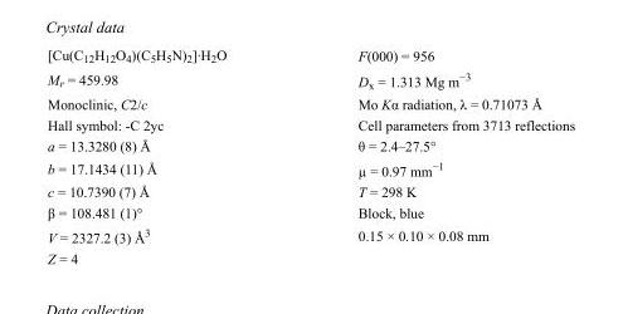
<table><tbody><tr><td>[Cu(C<sub>12</sub>H<sub>12</sub>O<sub>4</sub>)(C<sub>5</sub>H<sub>5</sub>N)<sub>2</sub>]·H<sub>2</sub>O</td><td>F(000) = 956</td></tr><tr><td>M<sub>r</sub> = 459.98</td><td>D<sub>x</sub> = 1.313 Mg m<sup>−3</sup></td></tr><tr><td>Monoclinic, C2/c</td><td>Mo Kα radiation, λ = 0.71073 Å</td></tr><tr><td>Hall symbol: -C 2yc</td><td>Cell parameters from 3713 reflections</td></tr><tr><td>a = 13.3280 (8) Å</td><td>θ = 2.4–27.5°</td></tr><tr><td>b = 17.1434 (11) Å</td><td>µ = 0.97 mm<sup>−1</sup></td></tr><tr><td>c = 10.7390 (7) Å</td><td>T = 298 K</td></tr><tr><td>β = 108.481 (1)°</td><td>Block, blue</td></tr><tr><td>V = 2327.2 (3) Å<sup>3</sup></td><td>0.15 × 0.10 × 0.08 mm</td></tr><tr><td>Z = 4</td><td></td></tr></tbody></table>